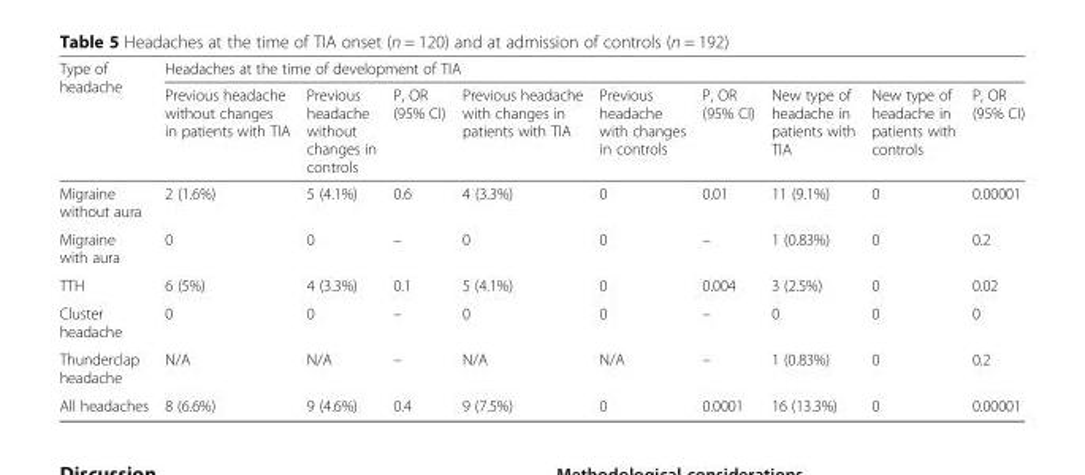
<table><thead><tr><td rowspan="2">Type of headache</td><td colspan="9">Headaches at the time of development of TIA</td></tr><tr><td>Previous headache without changes in patients with TIA</td><td>Previous headache without changes in controls</td><td>Р, ОR (95% CI)</td><td>Previous headache with changes in patients with TIA</td><td>Previous headache with changes in controls</td><td>Р, ОR (95% CI)</td><td>New type of headache in patients with TIA</td><td>New type of headache in patients with controls</td><td>Р, ОR (95% CI)</td></tr></thead><tbody><tr><td>Migraine without aura</td><td>2 (1.6%)</td><td>5 (4.1%)</td><td>0.6</td><td>4 (3.3%)</td><td>0</td><td>0.01</td><td>11 (9.1%)</td><td>0</td><td>0.00001</td></tr><tr><td>Migraine with aura</td><td>0</td><td>0</td><td>–</td><td>0</td><td>0</td><td>–</td><td>1 (0.83%)</td><td>0</td><td>0.2</td></tr><tr><td>TTH</td><td>6 (5%)</td><td>4 (3.3%)</td><td>0.1</td><td>5 (4.1%)</td><td>0</td><td>0.004</td><td>3 (2.5%)</td><td>0</td><td>0.02</td></tr><tr><td>Cluster headache</td><td>0</td><td>0</td><td>–</td><td>0</td><td>0</td><td>–</td><td>0</td><td>0</td><td>0</td></tr><tr><td>Thunderclap headache</td><td>N/A</td><td>N/A</td><td>–</td><td>N/A</td><td>N/A</td><td>–</td><td>1 (0.83%)</td><td>0</td><td>0.2</td></tr><tr><td>All headaches</td><td>8 (6.6%)</td><td>9 (4.6%)</td><td>0.4</td><td>9 (7.5%)</td><td>0</td><td>0.0001</td><td>16 (13.3%)</td><td>0</td><td>0.00001</td></tr></tbody></table>